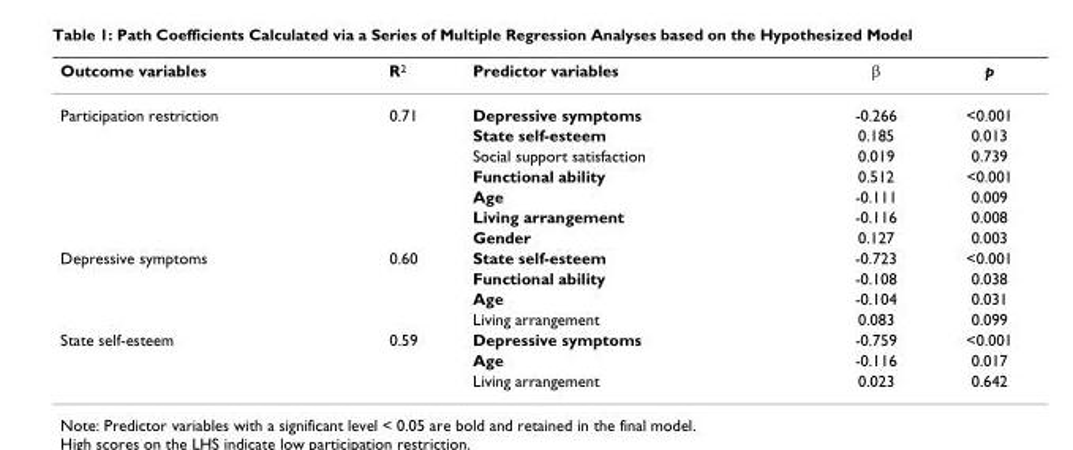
<table><thead><tr><td>Outcome variables</td><td>R<sup>2</sup></td><td>Predictor variables</td><td>β</td><td>p</td></tr></thead><tbody><tr><td rowspan="7">Participation restriction</td><td>0.71</td><td>Depressive symptoms</td><td>-0.266</td><td>&lt;0.001</td></tr><tr><td></td><td>State self-esteem</td><td>0.185</td><td>0.013</td></tr><tr><td></td><td>Social support satisfaction</td><td>0.019</td><td>0.739</td></tr><tr><td></td><td>Functional ability</td><td>0.512</td><td>&lt;0.001</td></tr><tr><td></td><td>Age</td><td>-0.111</td><td>0.009</td></tr><tr><td></td><td>Living arrangement</td><td>-0.116</td><td>0.008</td></tr><tr><td></td><td>Gender</td><td>0.127</td><td>0.003</td></tr><tr><td rowspan="4">Depressive symptoms</td><td>0.60</td><td>State self-esteem</td><td>-0.723</td><td>&lt;0.001</td></tr><tr><td></td><td>Functional ability</td><td>-0.108</td><td>0.038</td></tr><tr><td></td><td>Age</td><td>-0.104</td><td>0.031</td></tr><tr><td></td><td>Living arrangement</td><td>0.083</td><td>0.099</td></tr><tr><td rowspan="3">State self-esteem</td><td>0.59</td><td>Depressive symptoms</td><td>-0.759</td><td>&lt;0.001</td></tr><tr><td></td><td>Age</td><td>-0.116</td><td>0.017</td></tr><tr><td></td><td>Living arrangement</td><td>0.023</td><td>0.642</td></tr></tbody></table>